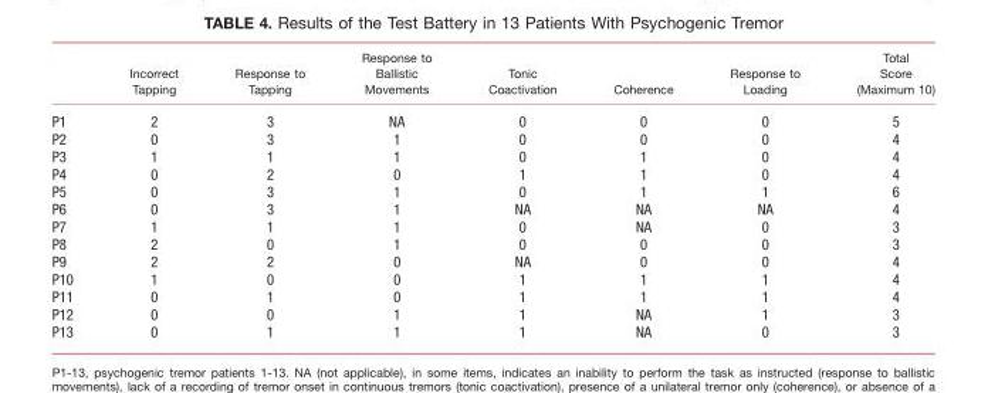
<table><thead><tr><td></td><td>Incorrect Tapping</td><td>Response to Tapping</td><td>Response to Ballistic Movements</td><td>Tonic Coactivation</td><td>Coherence</td><td>Response to Loading</td><td>Total Score (Maximum 10)</td></tr></thead><tbody><tr><td>P1</td><td>2</td><td>3</td><td>NA</td><td>0</td><td>0</td><td>0</td><td>5</td></tr><tr><td>P2</td><td>0</td><td>3</td><td>1</td><td>0</td><td>0</td><td>0</td><td>4</td></tr><tr><td>P3</td><td>1</td><td>1</td><td>1</td><td>0</td><td>1</td><td>0</td><td>4</td></tr><tr><td>P4</td><td>0</td><td>2</td><td>0</td><td>1</td><td>1</td><td>0</td><td>4</td></tr><tr><td>P5</td><td>0</td><td>3</td><td>1</td><td>0</td><td>1</td><td>1</td><td>6</td></tr><tr><td>P6</td><td>0</td><td>3</td><td>1</td><td>NA</td><td>NA</td><td>NA</td><td>4</td></tr><tr><td>P7</td><td>1</td><td>1</td><td>1</td><td>0</td><td>NA</td><td>0</td><td>3</td></tr><tr><td>P8</td><td>2</td><td>0</td><td>1</td><td>0</td><td>0</td><td>0</td><td>3</td></tr><tr><td>P9</td><td>2</td><td>2</td><td>0</td><td>NA</td><td>0</td><td>0</td><td>4</td></tr><tr><td>P10</td><td>1</td><td>0</td><td>0</td><td>1</td><td>1</td><td>1</td><td>4</td></tr><tr><td>P11</td><td>0</td><td>1</td><td>0</td><td>1</td><td>1</td><td>1</td><td>4</td></tr><tr><td>P12</td><td>0</td><td>0</td><td>1</td><td>1</td><td>NA</td><td>1</td><td>3</td></tr><tr><td>P13</td><td>0</td><td>1</td><td>1</td><td>1</td><td>NA</td><td>0</td><td>3</td></tr></tbody></table>